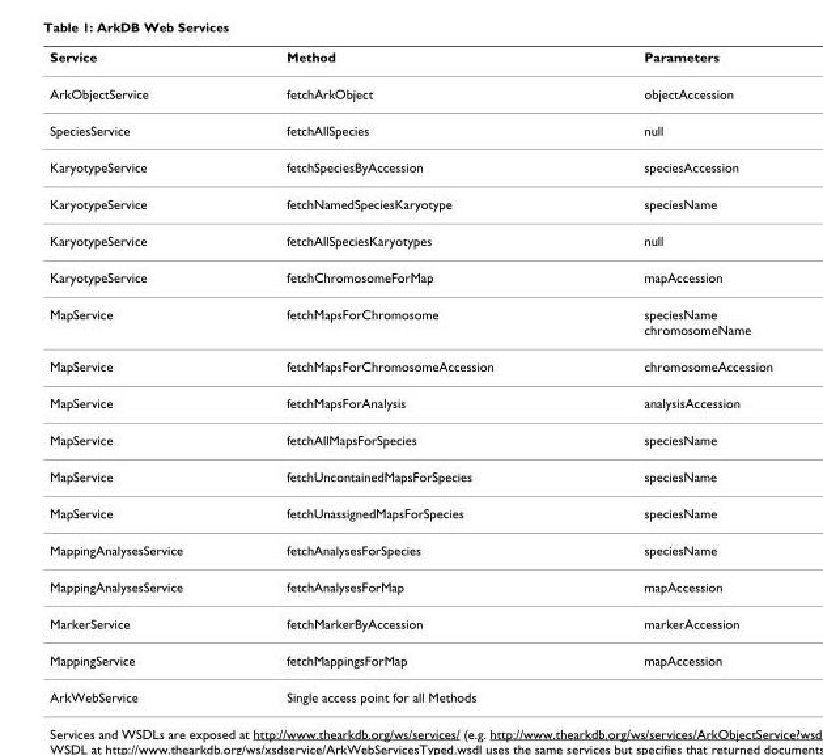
<table><thead><tr><td>Service</td><td>Method</td><td>Parameters</td></tr></thead><tbody><tr><td>ArkObjectService</td><td>fetchArkObject</td><td>objectAccession</td></tr><tr><td>SpeciesService</td><td>fetchAllSpecies</td><td>null</td></tr><tr><td>KaryotypeService</td><td>fetchSpeciesByAccession</td><td>speciesAccession</td></tr><tr><td>KaryotypeService</td><td>fetchNamedSpeciesKaryotype</td><td>speciesName</td></tr><tr><td>KaryotypeService</td><td>fetchAllSpeciesKaryotypes</td><td>null</td></tr><tr><td>KaryotypeService</td><td>fetchChromosomeForMap</td><td>mapAccession</td></tr><tr><td>MapService</td><td>fetchMapsForChromosome</td><td>speciesName chromosomeName</td></tr><tr><td>MapService</td><td>fetchMapsForChromosomeAccession</td><td>chromosomeAccession</td></tr><tr><td>MapService</td><td>fetchMapsForAnalysis</td><td>analysisAccession</td></tr><tr><td>MapService</td><td>fetchAllMapsForSpecies</td><td>speciesName</td></tr><tr><td>MapService</td><td>fetchUncontainedMapsForSpecies</td><td>speciesName</td></tr><tr><td>MapService</td><td>fetchUnassignedMapsForSpecies</td><td>speciesName</td></tr><tr><td>MappingAnalysesService</td><td>fetchAnalysesForSpecies</td><td>speciesName</td></tr><tr><td>MappingAnalysesService</td><td>fetchAnalysesForMap</td><td>mapAccession</td></tr><tr><td>MarkerService</td><td>fetchMarkerByAccession</td><td>markerAccession</td></tr><tr><td>MappingService</td><td>fetchMappingsForMap</td><td>mapAccession</td></tr><tr><td>ArkWebService</td><td>Single access point for all Methods</td><td></td></tr></tbody></table>